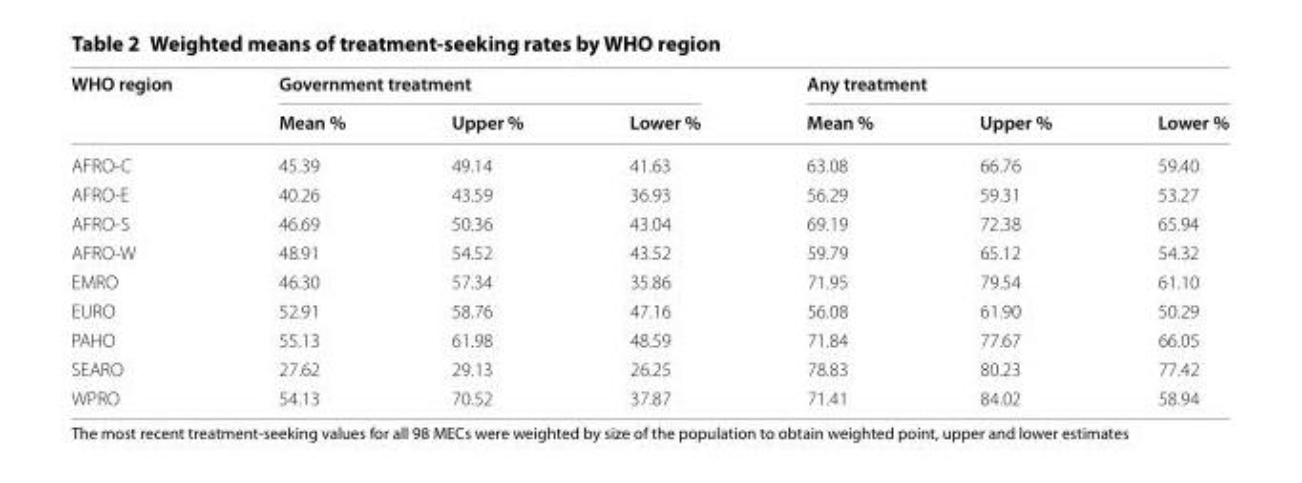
<table><thead><tr><td rowspan="2">WHO region</td><td colspan="3">Government treatment</td><td colspan="3">Any treatment</td></tr><tr><td>Mean %</td><td>Upper %</td><td>Lower %</td><td>Mean %</td><td>Upper %</td><td>Lower %</td></tr></thead><tbody><tr><td>AFRO-C</td><td>45.39</td><td>49.14</td><td>41.63</td><td>63.08</td><td>66.76</td><td>59.40</td></tr><tr><td>AFRO-E</td><td>40.26</td><td>43.59</td><td>36.93</td><td>56.29</td><td>59.31</td><td>53.27</td></tr><tr><td>AFRO-S</td><td>46.69</td><td>50.36</td><td>43.04</td><td>69.19</td><td>72.38</td><td>65.94</td></tr><tr><td>AFRO-W</td><td>48.91</td><td>54.52</td><td>43.52</td><td>59.79</td><td>65.12</td><td>54.32</td></tr><tr><td>EMRO</td><td>46.30</td><td>57.34</td><td>35.86</td><td>71.95</td><td>79.54</td><td>61.10</td></tr><tr><td>EURO</td><td>52.91</td><td>58.76</td><td>47.16</td><td>56.08</td><td>61.90</td><td>50.29</td></tr><tr><td>PAHO</td><td>55.13</td><td>61.98</td><td>48.59</td><td>71.84</td><td>77.67</td><td>66.05</td></tr><tr><td>SEARO</td><td>27.62</td><td>29.13</td><td>26.25</td><td>78.83</td><td>80.23</td><td>77.42</td></tr><tr><td>WPRO</td><td>54.13</td><td>70.52</td><td>37.87</td><td>71.41</td><td>84.02</td><td>58.94</td></tr></tbody></table>